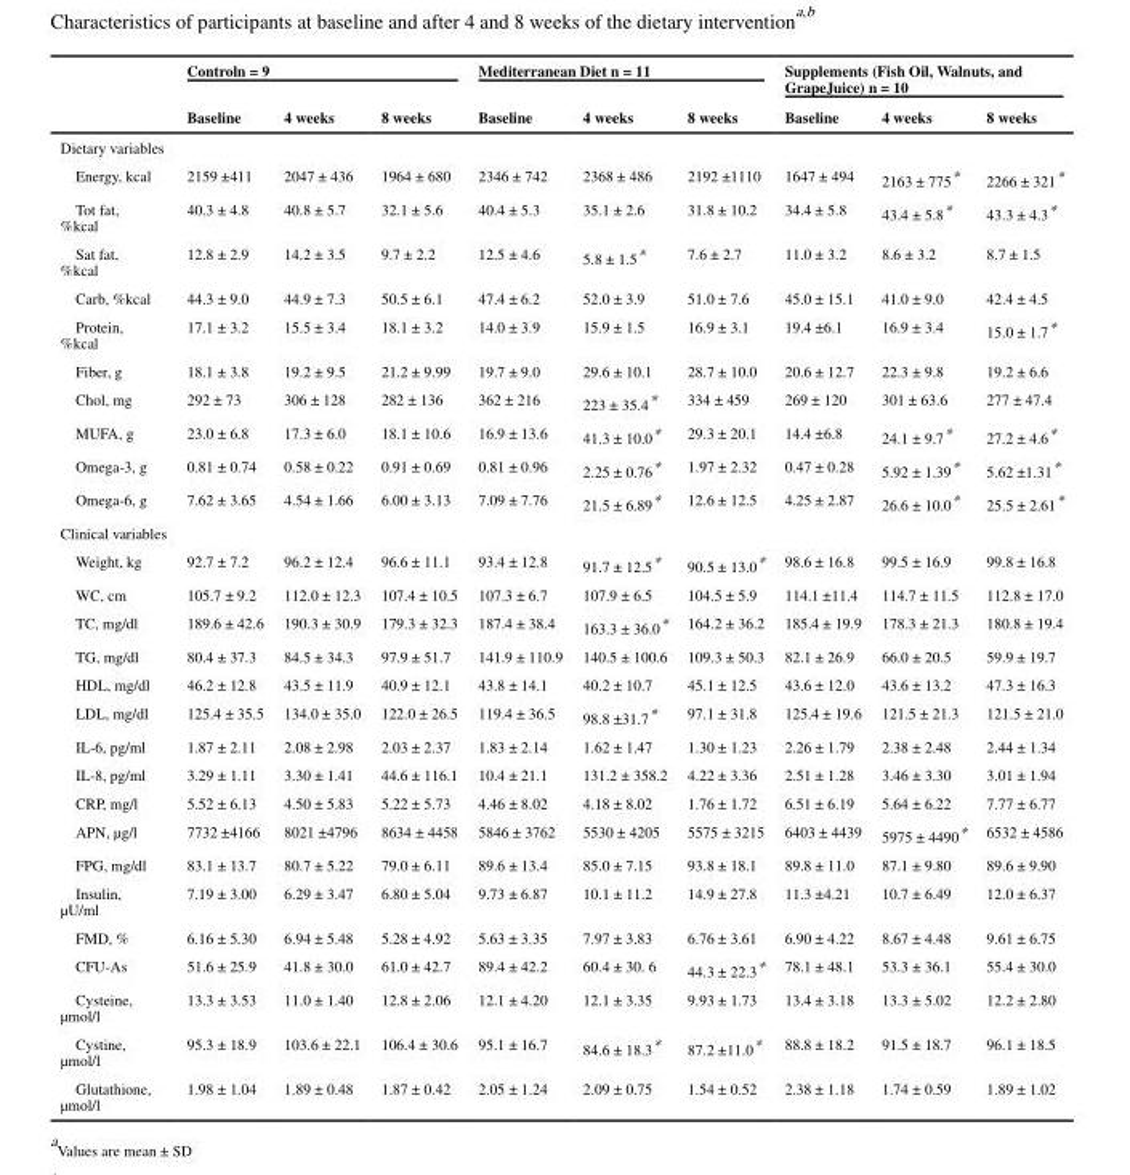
<table><thead><tr><td rowspan="2"></td><td colspan="3">Controln = 9</td><td colspan="3">Mediterranean Diet n = 11</td><td colspan="3">Supplements (Fish Oil, Walnuts, and GrapeJuice) n = 10</td></tr><tr><td>Baseline</td><td>4 weeks</td><td>8 weeks</td><td>Baseline</td><td>4 weeks</td><td>8 weeks</td><td>Baseline</td><td>4 weeks</td><td>8 weeks</td></tr></thead><tbody><tr><td colspan="10">Dietary variables</td></tr><tr><td>Energy, kcal</td><td>2159 ±411</td><td>2047 ± 436</td><td>1964 ± 680</td><td>2346 ± 742</td><td>2368 ± 486</td><td>2192 ±1110</td><td>1647 ± 494</td><td>2163 ± 775*</td><td>2266 ± 321*</td></tr><tr><td>Tot fat, %kcal</td><td>40.3 ± 4.8</td><td>40.8 ± 5.7</td><td>32.1 ± 5.6</td><td>40.4 ± 5.3</td><td>35.1 ± 2.6</td><td>31.8 ± 10.2</td><td>34.4 ± 5.8</td><td>43.4 ± 5.8*</td><td>43.3 ± 4.3*</td></tr><tr><td>Sat fat, %kcal</td><td>12.8 ± 2.9</td><td>14.2 ± 3.5</td><td>9.7 ± 2.2</td><td>12.5 ± 4.6</td><td>5.8 ± 1.5*</td><td>7.6 ± 2.7</td><td>11.0 ± 3.2</td><td>8.6 ± 3.2</td><td>8.7 ± 1.5</td></tr><tr><td>Carb, %kcal</td><td>44.3 ± 9.0</td><td>44.9 ± 7.3</td><td>50.5 ± 6.1</td><td>47.4 ± 6.2</td><td>52.0 ± 3.9</td><td>51.0 ± 7.6</td><td>45.0 ± 15.1</td><td>41.0 ± 9.0</td><td>42.4 ± 4.5</td></tr><tr><td>Protein, %kcal</td><td>17.1 ± 3.2</td><td>15.5 ± 3.4</td><td>18.1 ± 3.2</td><td>14.0 ± 3.9</td><td>15.9 ± 1.5</td><td>16.9 ± 3.1</td><td>19.4 ±6.1</td><td>16.9 ± 3.4</td><td>15.0 ± 1.7*</td></tr><tr><td>Fiber, g</td><td>18.1 ± 3.8</td><td>19.2 ± 9.5</td><td>21.2 ± 9.99</td><td>19.7 ± 9.0</td><td>29.6 ± 10.1</td><td>28.7 ± 10.0</td><td>20.6 ± 12.7</td><td>22.3 ± 9.8</td><td>19.2 ± 6.6</td></tr><tr><td>Chol, mg</td><td>292 ± 73</td><td>306 ± 128</td><td>282 ± 136</td><td>362 ± 216</td><td>223 ± 35.4*</td><td>334 ± 459</td><td>269 ± 120</td><td>301 ± 63.6</td><td>277 ± 47.4</td></tr><tr><td>MUFA, g</td><td>23.0 ± 6.8</td><td>17.3 ± 6.0</td><td>18.1 ± 10.6</td><td>16.9 ± 13.6</td><td>41.3 ± 10.0*</td><td>29.3 ± 20.1</td><td>14.4 ±6.8</td><td>24.1 ± 9.7*</td><td>27.2 ± 4.6*</td></tr><tr><td>Omega-3, g</td><td>0.81 ± 0.74</td><td>0.58 ± 0.22</td><td>0.91 ± 0.69</td><td>0.81 ± 0.96</td><td>2.25 ± 0.76*</td><td>1.97 ± 2.32</td><td>0.47 ± 0.28</td><td>5.92 ± 1.39*</td><td>5.62 ±1.31*</td></tr><tr><td>Omega-6, g</td><td>7.62 ± 3.65</td><td>4.54 ± 1.66</td><td>6.00 ± 3.13</td><td>7.09 ± 7.76</td><td>21.5 ± 6.89*</td><td>12.6 ± 12.5</td><td>4.25 ± 2.87</td><td>26.6 ± 10.0*</td><td>25.5 ± 2.61*</td></tr><tr><td colspan="10">Clinical variables</td></tr><tr><td>Weight, kg</td><td>92.7 ± 7.2</td><td>96.2 ± 12.4</td><td>96.6 ± 11.1</td><td>93.4 ± 12.8</td><td>91.7 ± 12.5*</td><td>90.5 ± 13.0*</td><td>98.6 ± 16.8</td><td>99.5 ± 16.9</td><td>99.8 ± 16.8</td></tr><tr><td>WC, cm</td><td>105.7 ± 9.2</td><td>112.0 ± 12.3</td><td>107.4 ± 10.5</td><td>107.3 ± 6.7</td><td>107.9 ± 6.5</td><td>104.5 ± 5.9</td><td>114.1 ±11.4</td><td>114.7 ± 11.5</td><td>112.8 ± 17.0</td></tr><tr><td>TC, mg/dl</td><td>189.6 ± 42.6</td><td>190.3 ± 30.9</td><td>179.3 ± 32.3</td><td>187.4 ± 38.4</td><td>163.3 ± 36.0*</td><td>164.2 ± 36.2</td><td>185.4 ± 19.9</td><td>178.3 ± 21.3</td><td>180.8 ± 19.4</td></tr><tr><td>TG, mg/dl</td><td>80.4 ± 37.3</td><td>84.5 ± 34.3</td><td>97.9 ± 51.7</td><td>141.9 ± 110.9</td><td>140.5 ± 100.6</td><td>109.3 ± 50.3</td><td>82.1 ± 26.9</td><td>66.0 ± 20.5</td><td>59.9 ± 19.7</td></tr><tr><td>HDL, mg/dl</td><td>46.2 ± 12.8</td><td>43.5 ± 11.9</td><td>40.9 ± 12.1</td><td>43.8 ± 14.1</td><td>40.2 ± 10.7</td><td>45.1 ± 12.5</td><td>43.6 ± 12.0</td><td>43.6 ± 13.2</td><td>47.3 ± 16.3</td></tr><tr><td>LDL, mg/dl</td><td>125.4 ± 35.5</td><td>134.0 ± 35.0</td><td>122.0 ± 26.5</td><td>119.4 ± 36.5</td><td>98.8 ±31.7*</td><td>97.1 ± 31.8</td><td>125.4 ± 19.6</td><td>121.5 ± 21.3</td><td>121.5 ± 21.0</td></tr><tr><td>IL-6, pg/ml</td><td>1.87 ± 2.11</td><td>2.08 ± 2.98</td><td>2.03 ± 2.37</td><td>1.83 ± 2.14</td><td>1.62 ± 1.47</td><td>1.30 ± 1.23</td><td>2.26 ± 1.79</td><td>2.38 ± 2.48</td><td>2.44 ± 1.34</td></tr><tr><td>IL-8, pg/ml</td><td>3.29 ± 1.11</td><td>3.30 ± 1.41</td><td>44.6 ± 116.1</td><td>10.4 ± 21.1</td><td>131.2 ± 358.2</td><td>4.22 ± 3.36</td><td>2.51 ± 1.28</td><td>3.46 ± 3.30</td><td>3.01 ± 1.94</td></tr><tr><td>CRP, mg/l</td><td>5.52 ± 6.13</td><td>4.50 ± 5.83</td><td>5.22 ± 5.73</td><td>4.46 ± 8.02</td><td>4.18 ± 8.02</td><td>1.76 ± 1.72</td><td>6.51 ± 6.19</td><td>5.64 ± 6.22</td><td>7.77 ± 6.77</td></tr><tr><td>APN, μg/l</td><td>7732 ±4166</td><td>8021 ±4796</td><td>8634 ± 4458</td><td>5846 ± 3762</td><td>5530 ± 4205</td><td>5575 ± 3215</td><td>6403 ± 4439</td><td>5975 ± 4490*</td><td>6532 ± 4586</td></tr><tr><td>FPG, mg/dl</td><td>83.1 ± 13.7</td><td>80.7 ± 5.22</td><td>79.0 ± 6.11</td><td>89.6 ± 13.4</td><td>85.0 ± 7.15</td><td>93.8 ± 18.1</td><td>89.8 ± 11.0</td><td>87.1 ± 9.80</td><td>89.6 ± 9.90</td></tr><tr><td>Insulin, μU/ml</td><td>7.19 ± 3.00</td><td>6.29 ± 3.47</td><td>6.80 ± 5.04</td><td>9.73 ± 6.87</td><td>10.1 ± 11.2</td><td>14.9 ± 27.8</td><td>11.3 ±4.21</td><td>10.7 ± 6.49</td><td>12.0 ± 6.37</td></tr><tr><td>FMD, %</td><td>6.16 ± 5.30</td><td>6.94 ± 5.48</td><td>5.28 ± 4.92</td><td>5.63 ± 3.35</td><td>7.97 ± 3.83</td><td>6.76 ± 3.61</td><td>6.90 ± 4.22</td><td>8.67 ± 4.48</td><td>9.61 ± 6.75</td></tr><tr><td>CFU-As</td><td>51.6 ± 25.9</td><td>41.8 ± 30.0</td><td>61.0 ± 42.7</td><td>89.4 ± 42.2</td><td>60.4 ± 30. 6</td><td>44.3 ± 22.3*</td><td>78.1 ± 48.1</td><td>53.3 ± 36.1</td><td>55.4 ± 30.0</td></tr><tr><td>Cysteine, μmol/l</td><td>13.3 ± 3.53</td><td>11.0 ± 1.40</td><td>12.8 ± 2.06</td><td>12.1 ± 4.20</td><td>12.1 ± 3.35</td><td>9.93 ± 1.73</td><td>13.4 ± 3.18</td><td>13.3 ± 5.02</td><td>12.2 ± 2.80</td></tr><tr><td>Cystine, μmol/l</td><td>95.3 ± 18.9</td><td>103.6 ± 22.1</td><td>106.4 ± 30.6</td><td>95.1 ± 16.7</td><td>84.6 ± 18.3*</td><td>87.2 ±11.0*</td><td>88.8 ± 18.2</td><td>91.5 ± 18.7</td><td>96.1 ± 18.5</td></tr><tr><td>Glutathione, μmol/l</td><td>1.98 ± 1.04</td><td>1.89 ± 0.48</td><td>1.87 ± 0.42</td><td>2.05 ± 1.24</td><td>2.09 ± 0.75</td><td>1.54 ± 0.52</td><td>2.38 ± 1.18</td><td>1.74 ± 0.59</td><td>1.89 ± 1.02</td></tr></tbody></table>